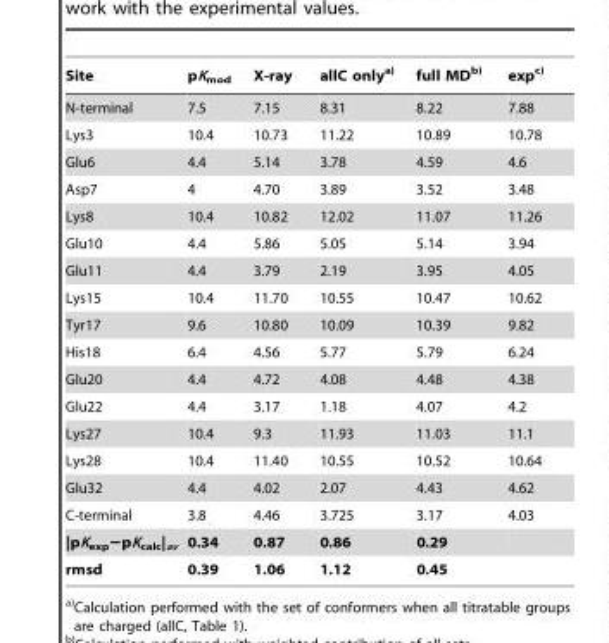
<table><thead><tr><td>Site</td><td>pK<sub>mod</sub></td><td>X-ray</td><td>allC onlya)</td><td>full MDb)</td><td>expc)</td></tr></thead><tbody><tr><td>N-terminal</td><td>7.5</td><td>7.15</td><td>8.31</td><td>8.22</td><td>7.88</td></tr><tr><td>Lys3</td><td>10.4</td><td>10.73</td><td>11.22</td><td>10.89</td><td>10.78</td></tr><tr><td>Glu6</td><td>4.4</td><td>5.14</td><td>3.78</td><td>4.59</td><td>4.6</td></tr><tr><td>Asp7</td><td>4</td><td>4.70</td><td>3.89</td><td>3.52</td><td>3.48</td></tr><tr><td>Lys8</td><td>10.4</td><td>10.82</td><td>12.02</td><td>11.07</td><td>11.26</td></tr><tr><td>Glu10</td><td>4.4</td><td>5.86</td><td>5.05</td><td>5.14</td><td>3.94</td></tr><tr><td>Glu11</td><td>4.4</td><td>3.79</td><td>2.19</td><td>3.95</td><td>4.05</td></tr><tr><td>Lys15</td><td>10.4</td><td>11.70</td><td>10.55</td><td>10.47</td><td>10.62</td></tr><tr><td>Tyr17</td><td>9.6</td><td>10.80</td><td>10.09</td><td>10.39</td><td>9.82</td></tr><tr><td>His18</td><td>6.4</td><td>4.56</td><td>5.77</td><td>5.79</td><td>6.24</td></tr><tr><td>Glu20</td><td>4.4</td><td>4.72</td><td>4.08</td><td>4.48</td><td>4.38</td></tr><tr><td>Glu22</td><td>4.4</td><td>3.17</td><td>1.18</td><td>4.07</td><td>4.2</td></tr><tr><td>Lys27</td><td>10.4</td><td>9.3</td><td>11.93</td><td>11.03</td><td>11.1</td></tr><tr><td>Lys28</td><td>10.4</td><td>11.40</td><td>10.55</td><td>10.52</td><td>10.64</td></tr><tr><td>Glu32</td><td>4.4</td><td>4.02</td><td>2.07</td><td>4.43</td><td>4.62</td></tr><tr><td>C-terminal</td><td>3.8</td><td>4.46</td><td>3.725</td><td>3.17</td><td>4.03</td></tr><tr><td>|pK<sub>exp</sub>−pK<sub>calc</sub>|<sub>av</sub></td><td>0.34</td><td>0.87</td><td>0.86</td><td>0.29</td><td></td></tr><tr><td>rmsd</td><td>0.39</td><td>1.06</td><td>1.12</td><td>0.45</td><td></td></tr></tbody></table>